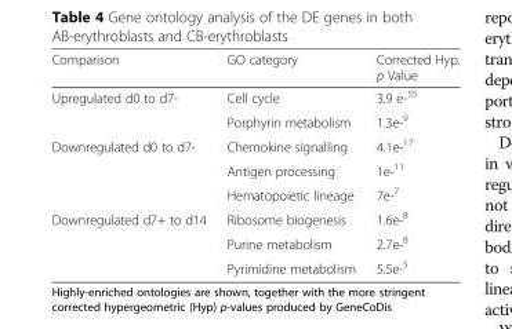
<table><thead><tr><td>Comparison</td><td>GO category</td><td>Corrected Hyp. p Value</td></tr></thead><tbody><tr><td rowspan="2">Upregulated d0 to d7-</td><td>Cell cycle</td><td>3.9 e-<sup>55</sup></td></tr><tr><td>Porphyrin metabolism</td><td>1.3e-<sup>9</sup></td></tr><tr><td rowspan="3">Downregulated d0 to d7-</td><td>Chemokine signalling</td><td>4.1e-<sup>17</sup></td></tr><tr><td>Antigen processing</td><td>1e-<sup>11</sup></td></tr><tr><td>Hematopoietic lineage</td><td>7e-<sup>7</sup></td></tr><tr><td rowspan="3">Downregulated d7+ to d14</td><td>Ribosome biogenesis</td><td>1.6e-<sup>8</sup></td></tr><tr><td>Purine metabolism</td><td>2.7e-<sup>8</sup></td></tr><tr><td>Pyrimidine metabolism</td><td>5.5e-<sup>5</sup></td></tr></tbody></table>